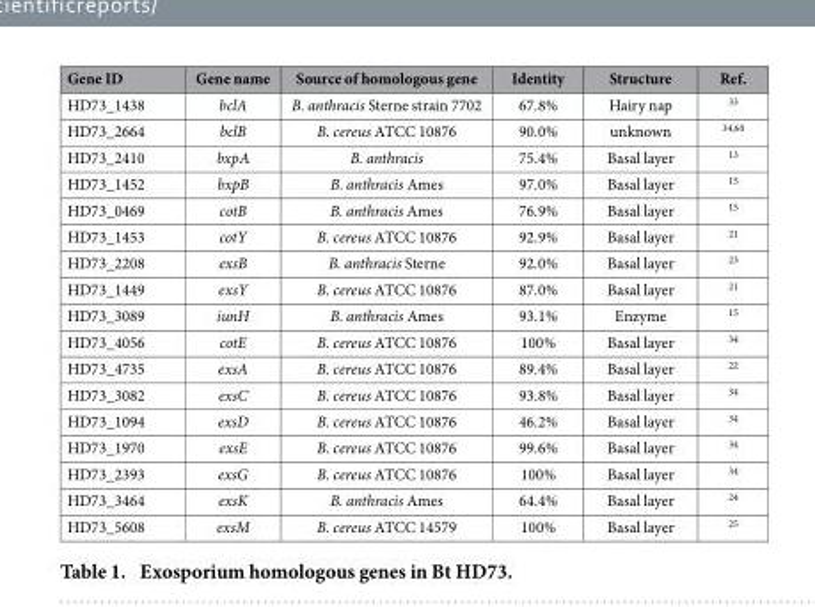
<table><thead><tr><td>Gene ID</td><td>Gene name</td><td>Source of homologous gene</td><td>Identity</td><td>Structure</td><td>Ref.</td></tr></thead><tbody><tr><td>HD73_1438</td><td>bclA</td><td>B. anthracis Sterne strain 7702</td><td>67.8%</td><td>Hairy nap</td><td>33</td></tr><tr><td>HD73_2664</td><td>bclB</td><td>B. cereus ATCC 10876</td><td>90.0%</td><td>unknown</td><td>34,60</td></tr><tr><td>HD73_2410</td><td>bxpA</td><td>B. anthracis</td><td>75.4%</td><td>Basal layer</td><td>13</td></tr><tr><td>HD73_1452</td><td>bxpB</td><td>B. anthracis Ames</td><td>97.0%</td><td>Basal layer</td><td>15</td></tr><tr><td>HD73_0469</td><td>cotB</td><td>B. anthracis Ames</td><td>76.9%</td><td>Basal layer</td><td>15</td></tr><tr><td>HD73_1453</td><td>cotY</td><td>B. cereus ATCC 10876</td><td>92.9%</td><td>Basal layer</td><td>21</td></tr><tr><td>HD73_2208</td><td>exsB</td><td>B. anthracis Sterne</td><td>92.0%</td><td>Basal layer</td><td>23</td></tr><tr><td>HD73_1449</td><td>exsY</td><td>B. cereus ATCC 10876</td><td>87.0%</td><td>Basal layer</td><td>21</td></tr><tr><td>HD73_3089</td><td>iunH</td><td>B. anthracis Ames</td><td>93.1%</td><td>Enzyme</td><td>15</td></tr><tr><td>HD73_4056</td><td>cotE</td><td>B. cereus ATCC 10876</td><td>100%</td><td>Basal layer</td><td>34</td></tr><tr><td>HD73_4735</td><td>exsA</td><td>B. cereus ATCC 10876</td><td>89.4%</td><td>Basal layer</td><td>22</td></tr><tr><td>HD73_3082</td><td>exsC</td><td>B. cereus ATCC 10876</td><td>93.8%</td><td>Basal layer</td><td>34</td></tr><tr><td>HD73_1094</td><td>exsD</td><td>B. cereus ATCC 10876</td><td>46.2%</td><td>Basal layer</td><td>34</td></tr><tr><td>HD73_1970</td><td>exsE</td><td>B. cereus ATCC 10876</td><td>99.6%</td><td>Basal layer</td><td>34</td></tr><tr><td>HD73_2393</td><td>exsG</td><td>B. cereus ATCC 10876</td><td>100%</td><td>Basal layer</td><td>34</td></tr><tr><td>HD73_3464</td><td>exsK</td><td>B. anthracis Ames</td><td>64.4%</td><td>Basal layer</td><td>24</td></tr><tr><td>HD73_5608</td><td>exsM</td><td>B. cereus ATCC 14579</td><td>100%</td><td>Basal layer</td><td>25</td></tr></tbody></table>